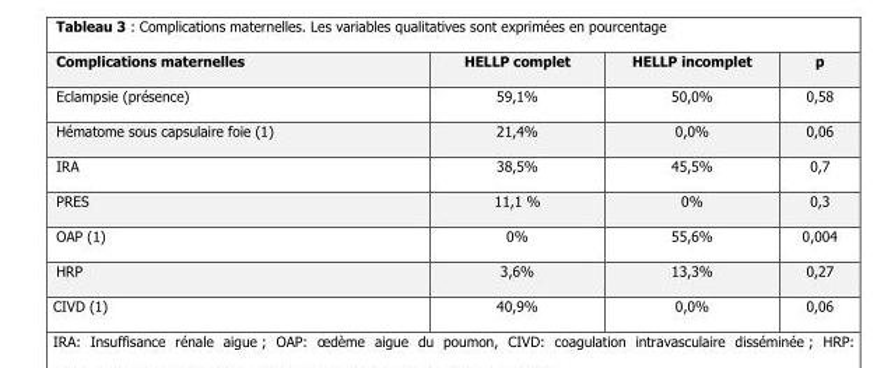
<table><thead><tr><td>Complications maternelles</td><td>HELLP complet</td><td>HELLP incomplet</td><td>p</td></tr></thead><tbody><tr><td>Eclampsie (présence)</td><td>59,1%</td><td>50,0%</td><td>0,58</td></tr><tr><td>Hématome sous capsulaire foie (1)</td><td>21,4%</td><td>0,0%</td><td>0,06</td></tr><tr><td>IRA</td><td>38,5%</td><td>45,5%</td><td>0,7</td></tr><tr><td>PRES</td><td>11,1 %</td><td>0%</td><td>0,3</td></tr><tr><td>OAP (1)</td><td>0%</td><td>55,6%</td><td>0,004</td></tr><tr><td>HRP</td><td>3,6%</td><td>13,3%</td><td>0,27</td></tr><tr><td>CIVD (1)</td><td>40,9%</td><td>0,0%</td><td>0,06</td></tr></tbody></table>